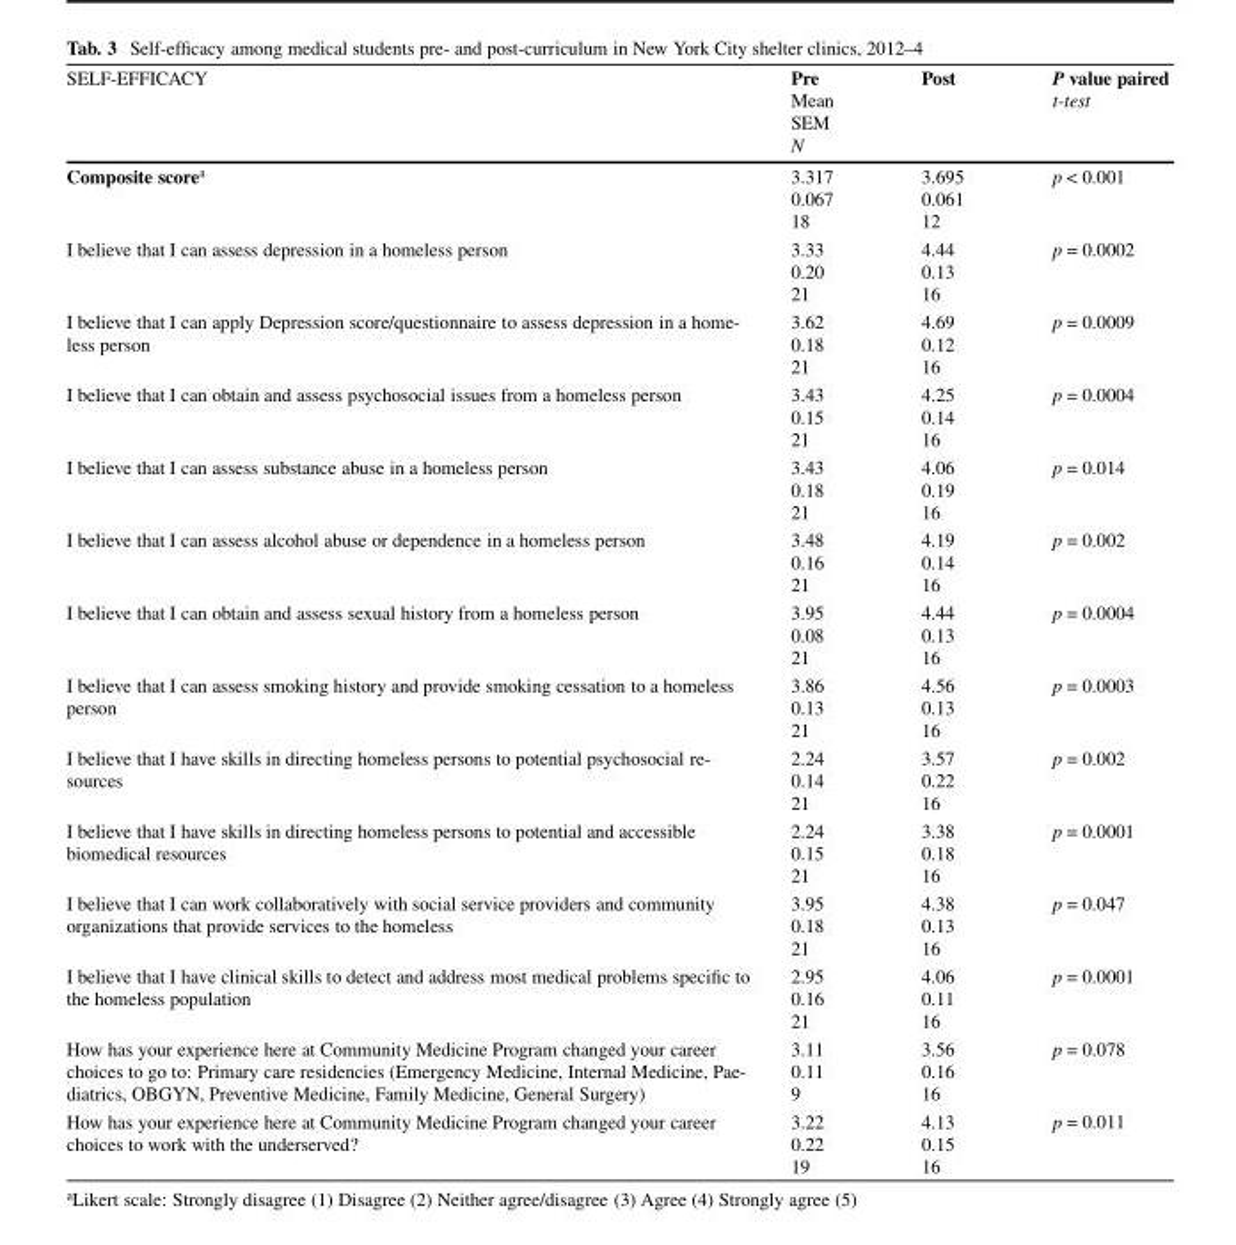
<table><thead><tr><td>SELF-EFFICACY</td><td>Pre Mean SEM N</td><td>Post</td><td>P value paired t-test</td></tr></thead><tbody><tr><td>Composite score<sup>a</sup></td><td>3.317 0.067 18</td><td>3.695 0.061 12</td><td>p &lt; 0.001</td></tr><tr><td>I believe that I can assess depression in a homeless person</td><td>3.33 0.20 21</td><td>4.44 0.13 16</td><td>p = 0.0002</td></tr><tr><td>I believe that I can apply Depression score/questionnaire to assess depression in a home- less person</td><td>3.62 0.18 21</td><td>4.69 0.12 16</td><td>p = 0.0009</td></tr><tr><td>I believe that I can obtain and assess psychosocial issues from a homeless person</td><td>3.43 0.15 21</td><td>4.25 0.14 16</td><td>p = 0.0004</td></tr><tr><td>I believe that I can assess substance abuse in a homeless person</td><td>3.43 0.18 21</td><td>4.06 0.19 16</td><td>p = 0.014</td></tr><tr><td>I believe that I can assess alcohol abuse or dependence in a homeless person</td><td>3.48 0.16 21</td><td>4.19 0.14 16</td><td>p = 0.002</td></tr><tr><td>I believe that I can obtain and assess sexual history from a homeless person</td><td>3.95 0.08 21</td><td>4.44 0.13 16</td><td>p = 0.0004</td></tr><tr><td>I believe that I can assess smoking history and provide smoking cessation to a homeless person</td><td>3.86 0.13 21</td><td>4.56 0.13 16</td><td>p = 0.0003</td></tr><tr><td>I believe that I have skills in directing homeless persons to potential psychosocial re- sources</td><td>2.24 0.14 21</td><td>3.57 0.22 16</td><td>p = 0.002</td></tr><tr><td>I believe that I have skills in directing homeless persons to potential and accessible biomedical resources</td><td>2.24 0.15 21</td><td>3.38 0.18 16</td><td>p = 0.0001</td></tr><tr><td>I believe that I can work collaboratively with social service providers and community organizations that provide services to the homeless</td><td>3.95 0.18 21</td><td>4.38 0.13 16</td><td>p = 0.047</td></tr><tr><td>I believe that I have clinical skills to detect and address most medical problems specific to the homeless population</td><td>2.95 0.16 21</td><td>4.06 0.11 16</td><td>p = 0.0001</td></tr><tr><td>How has your experience here at Community Medicine Program changed your career choices to go to: Primary care residencies (Emergency Medicine, Internal Medicine, Pae- diatrics, OBGYN, Preventive Medicine, Family Medicine, General Surgery)</td><td>3.11 0.11 9</td><td>3.56 0.16 16</td><td>p = 0.078</td></tr><tr><td>How has your experience here at Community Medicine Program changed your career choices to work with the underserved?</td><td>3.22 0.22 19</td><td>4.13 0.15 16</td><td>p = 0.011</td></tr></tbody></table>